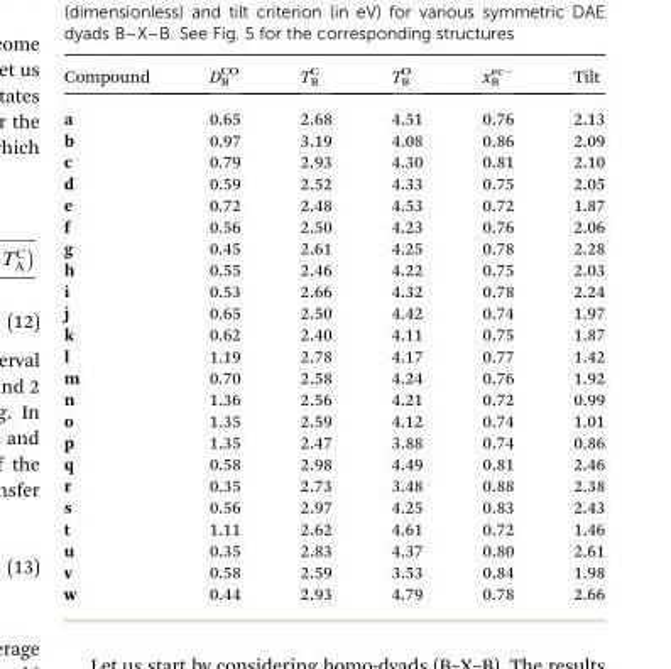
<table><thead><tr><td>Compound</td><td>DCO B</td><td>TC B</td><td>TO B</td><td>xec– B</td><td>Tilt</td></tr></thead><tbody><tr><td>a</td><td>0.65</td><td>2.68</td><td>4.51</td><td>0.76</td><td>2.13</td></tr><tr><td>b</td><td>0.97</td><td>3.19</td><td>4.08</td><td>0.86</td><td>2.09</td></tr><tr><td>c</td><td>0.79</td><td>2.93</td><td>4.30</td><td>0.81</td><td>2.10</td></tr><tr><td>d</td><td>0.59</td><td>2.52</td><td>4.33</td><td>0.75</td><td>2.05</td></tr><tr><td>e</td><td>0.72</td><td>2.48</td><td>4.53</td><td>0.72</td><td>1.87</td></tr><tr><td>f</td><td>0.56</td><td>2.50</td><td>4.23</td><td>0.76</td><td>2.06</td></tr><tr><td>g</td><td>0.45</td><td>2.61</td><td>4.25</td><td>0.78</td><td>2.28</td></tr><tr><td>h</td><td>0.55</td><td>2.46</td><td>4.22</td><td>0.75</td><td>2.03</td></tr><tr><td>i</td><td>0.53</td><td>2.66</td><td>4.32</td><td>0.78</td><td>2.24</td></tr><tr><td>j</td><td>0.65</td><td>2.50</td><td>4.42</td><td>0.74</td><td>1.97</td></tr><tr><td>k</td><td>0.62</td><td>2.40</td><td>4.11</td><td>0.75</td><td>1.87</td></tr><tr><td>l</td><td>1.19</td><td>2.78</td><td>4.17</td><td>0.77</td><td>1.42</td></tr><tr><td>m</td><td>0.70</td><td>2.58</td><td>4.24</td><td>0.76</td><td>1.92</td></tr><tr><td>n</td><td>1.36</td><td>2.56</td><td>4.21</td><td>0.72</td><td>0.99</td></tr><tr><td>o</td><td>1.35</td><td>2.59</td><td>4.12</td><td>0.74</td><td>1.01</td></tr><tr><td>p</td><td>1.35</td><td>2.47</td><td>3.88</td><td>0.74</td><td>0.86</td></tr><tr><td>q</td><td>0.58</td><td>2.98</td><td>4.49</td><td>0.81</td><td>2.46</td></tr><tr><td>r</td><td>0.35</td><td>2.73</td><td>3.48</td><td>0.88</td><td>2.38</td></tr><tr><td>s</td><td>0.56</td><td>2.97</td><td>4.25</td><td>0.83</td><td>2.43</td></tr><tr><td>t</td><td>1.11</td><td>2.62</td><td>4.61</td><td>0.72</td><td>1.46</td></tr><tr><td>u</td><td>0.35</td><td>2.83</td><td>4.37</td><td>0.80</td><td>2.61</td></tr><tr><td>v</td><td>0.58</td><td>2.59</td><td>3.53</td><td>0.84</td><td>1.98</td></tr><tr><td>w</td><td>0.44</td><td>2.93</td><td>4.79</td><td>0.78</td><td>2.66</td></tr></tbody></table>